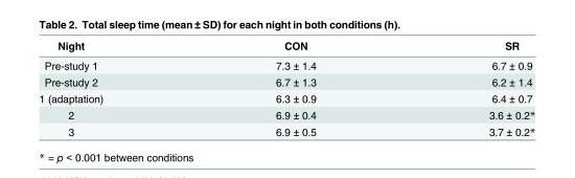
<table><thead><tr><td>Night</td><td>CON</td><td>SR</td></tr></thead><tbody><tr><td>Pre-study 1</td><td>7.3 ± 1.4</td><td>6.7 ± 0.9</td></tr><tr><td>Pre-study 2</td><td>6.7 ± 1.3</td><td>6.2 ± 1.4</td></tr><tr><td>1 (adaptation)</td><td>6.3 ± 0.9</td><td>6.4 ± 0.7</td></tr><tr><td>2</td><td>6.9 ± 0.4</td><td>3.6 ± 0.2*</td></tr><tr><td>3</td><td>6.9 ± 0.5</td><td>3.7 ± 0.2*</td></tr></tbody></table>